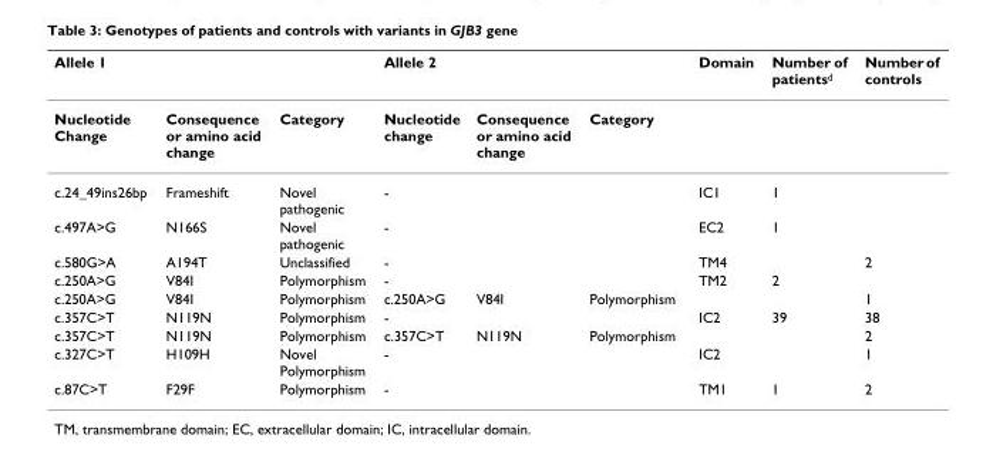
<table><thead><tr><td colspan="3">Allele 1</td><td colspan="3">Allele 2</td><td rowspan="2">Domain</td><td rowspan="2">Number of patients<sup>d</sup></td><td rowspan="2">Number of controls</td></tr><tr><td>Nucleotide Change</td><td>Consequence or amino acid change</td><td>Category</td><td>Nucleotide change</td><td>Consequence or amino acid change</td><td>Category</td></tr></thead><tbody><tr><td>c.24_49ins26bp</td><td>Frameshift</td><td>Novel pathogenic</td><td>-</td><td></td><td></td><td>IC1</td><td>1</td><td></td></tr><tr><td>c.497A&gt;G</td><td>N166S</td><td>Novel pathogenic</td><td>-</td><td></td><td></td><td>EC2</td><td>1</td><td></td></tr><tr><td>c.580G&gt;A</td><td>A194T</td><td>Unclassified</td><td>-</td><td></td><td></td><td>TM4</td><td></td><td>2</td></tr><tr><td>c.250A&gt;G</td><td>V84I</td><td>Polymorphism</td><td>-</td><td></td><td></td><td>TM2</td><td>2</td><td></td></tr><tr><td>c.250A&gt;G</td><td>V84I</td><td>Polymorphism</td><td>c.250A&gt;G</td><td>V84I</td><td>Polymorphism</td><td></td><td></td><td>1</td></tr><tr><td>c.357C&gt;T</td><td>N119N</td><td>Polymorphism</td><td>-</td><td></td><td></td><td>IC2</td><td>39</td><td>38</td></tr><tr><td>c.357C&gt;T</td><td>N119N</td><td>Polymorphism</td><td>c.357C&gt;T</td><td>N119N</td><td>Polymorphism</td><td></td><td></td><td>2</td></tr><tr><td>c.327C&gt;T</td><td>H109H</td><td>Novel Polymorphism</td><td>-</td><td></td><td></td><td>IC2</td><td></td><td>1</td></tr><tr><td>c.87C&gt;T</td><td>F29F</td><td>Polymorphism</td><td>-</td><td></td><td></td><td>TM1</td><td>1</td><td>2</td></tr></tbody></table>